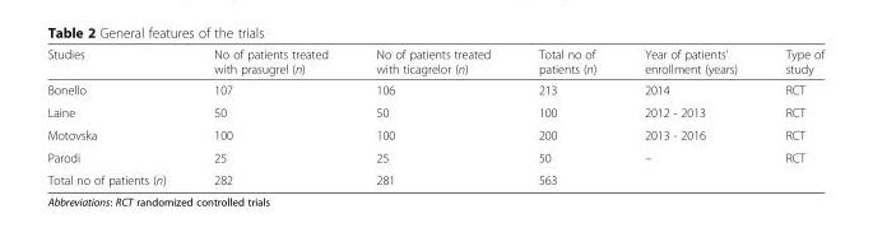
<table><thead><tr><td>Studies</td><td>No of patients treated with prasugrel (n)</td><td>No of patients treated with ticagrelor (n)</td><td>Total no of patients (n)</td><td>Year of patients’ enrollment (years)</td><td>Type of study</td></tr></thead><tbody><tr><td>Bonello</td><td>107</td><td>106</td><td>213</td><td>2014</td><td>RCT</td></tr><tr><td>Laine</td><td>50</td><td>50</td><td>100</td><td>2012 - 2013</td><td>RCT</td></tr><tr><td>Motovska</td><td>100</td><td>100</td><td>200</td><td>2013 - 2016</td><td>RCT</td></tr><tr><td>Parodi</td><td>25</td><td>25</td><td>50</td><td>–</td><td>RCT</td></tr><tr><td>Total no of patients (n)</td><td>282</td><td>281</td><td>563</td><td></td><td></td></tr></tbody></table>